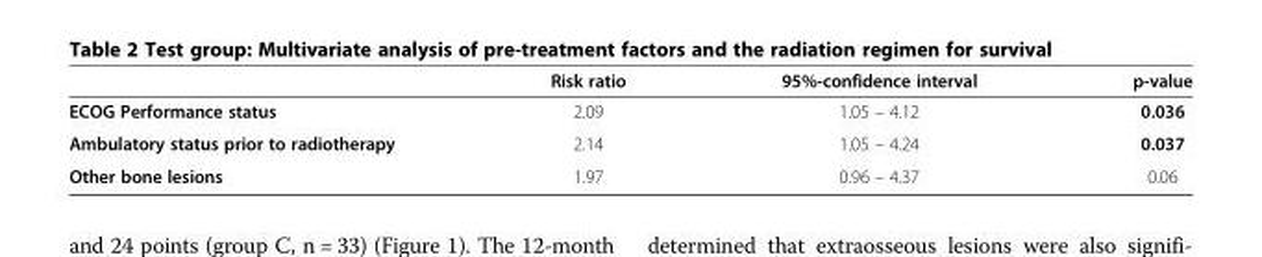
<table><thead><tr><td></td><td>Risk ratio</td><td>95%-confidence interval</td><td>p-value</td></tr></thead><tbody><tr><td>ECOG Performance status</td><td>2.09</td><td>1.05 – 4.12</td><td>0.036</td></tr><tr><td>Ambulatory status prior to radiotherapy</td><td>2.14</td><td>1.05 – 4.24</td><td>0.037</td></tr><tr><td>Other bone lesions</td><td>1.97</td><td>0.96 – 4.37</td><td>0.06</td></tr></tbody></table>